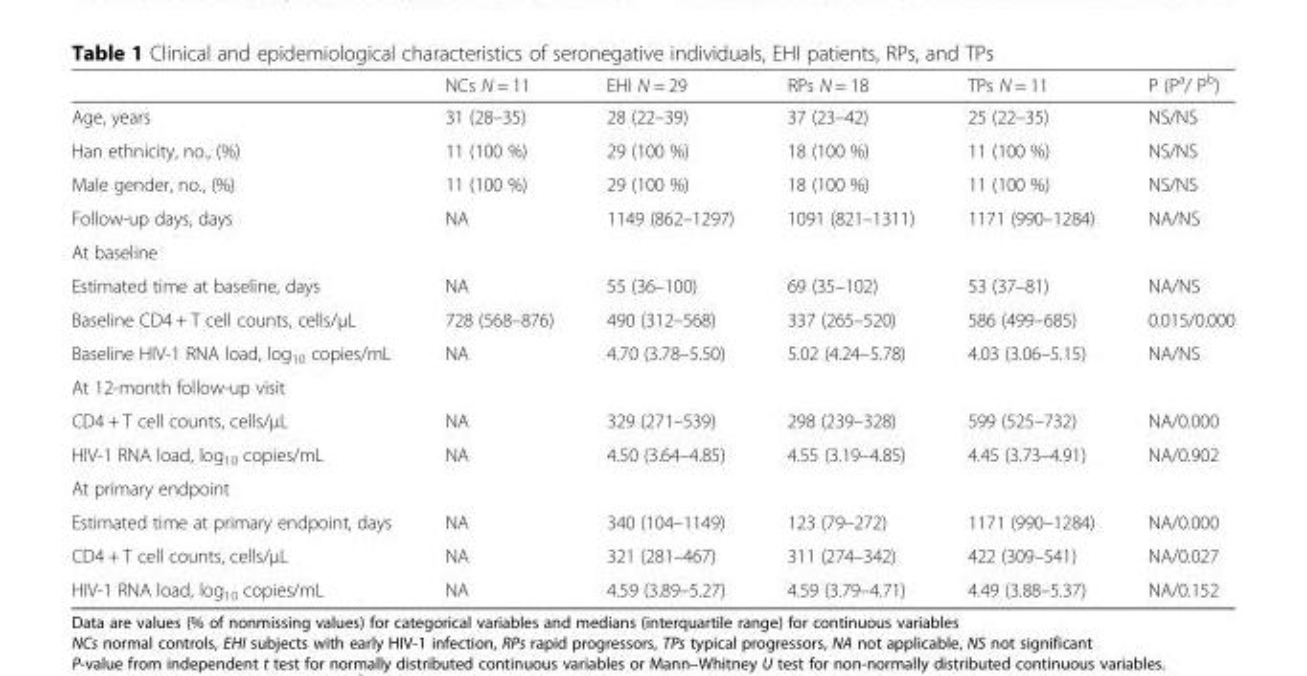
<table><thead><tr><td></td><td>NCs N = 11</td><td>EHI N = 29</td><td>RPs N = 18</td><td>TPs N = 11</td><td>P (P<sup>a</sup>/ P<sup>b</sup>)</td></tr></thead><tbody><tr><td>Age, years</td><td>31 (28–35)</td><td>28 (22–39)</td><td>37 (23–42)</td><td>25 (22–35)</td><td>NS/NS</td></tr><tr><td>Han ethnicity, no., (%)</td><td>11 (100 %)</td><td>29 (100 %)</td><td>18 (100 %)</td><td>11 (100 %)</td><td>NS/NS</td></tr><tr><td>Male gender, no., (%)</td><td>11 (100 %)</td><td>29 (100 %)</td><td>18 (100 %)</td><td>11 (100 %)</td><td>NS/NS</td></tr><tr><td>Follow-up days, days</td><td>NA</td><td>1149 (862–1297)</td><td>1091 (821–1311)</td><td>1171 (990–1284)</td><td>NA/NS</td></tr><tr><td colspan="6">At baseline</td></tr><tr><td>Estimated time at baseline, days</td><td>NA</td><td>55 (36–100)</td><td>69 (35–102)</td><td>53 (37–81)</td><td>NA/NS</td></tr><tr><td>Baseline CD4 + T cell counts, cells/μL</td><td>728 (568–876)</td><td>490 (312–568)</td><td>337 (265–520)</td><td>586 (499–685)</td><td>0.015/0.000</td></tr><tr><td>Baseline HIV-1 RNA load, log<sub>10</sub> copies/mL</td><td>NA</td><td>4.70 (3.78–5.50)</td><td>5.02 (4.24–5.78)</td><td>4.03 (3.06–5.15)</td><td>NA/NS</td></tr><tr><td colspan="6">At 12-month follow-up visit</td></tr><tr><td>CD4 + T cell counts, cells/μL</td><td>NA</td><td>329 (271–539)</td><td>298 (239–328)</td><td>599 (525–732)</td><td>NA/0.000</td></tr><tr><td>HIV-1 RNA load, log<sub>10</sub> copies/mL</td><td>NA</td><td>4.50 (3.64–4.85)</td><td>4.55 (3.19–4.85)</td><td>4.45 (3.73–4.91)</td><td>NA/0.902</td></tr><tr><td colspan="6">At primary endpoint</td></tr><tr><td>Estimated time at primary endpoint, days</td><td>NA</td><td>340 (104–1149)</td><td>123 (79–272)</td><td>1171 (990–1284)</td><td>NA/0.000</td></tr><tr><td>CD4 + T cell counts, cells/μL</td><td>NA</td><td>321 (281–467)</td><td>311 (274–342)</td><td>422 (309–541)</td><td>NA/0.027</td></tr><tr><td>HIV-1 RNA load, log<sub>10</sub> copies/mL</td><td>NA</td><td>4.59 (3.89–5.27)</td><td>4.59 (3.79–4.71)</td><td>4.49 (3.88–5.37)</td><td>NA/0.152</td></tr></tbody></table>